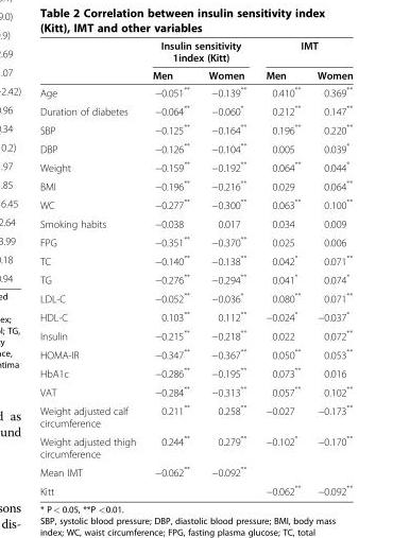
<table><thead><tr><td rowspan="2"></td><td colspan="2">Insulin sensitivity 1index (Kitt)</td><td colspan="2">IMT</td></tr><tr><td>Men</td><td>Women</td><td>Men</td><td>Women</td></tr></thead><tbody><tr><td>Age</td><td>−0.051**</td><td>−0.139**</td><td>0.410**</td><td>0.369**</td></tr><tr><td>Duration of diabetes</td><td>−0.064**</td><td>−0.060*</td><td>0.212**</td><td>0.147**</td></tr><tr><td>SBP</td><td>−0.125**</td><td>−0.164**</td><td>0.196**</td><td>0.220**</td></tr><tr><td>DBP</td><td>−0.126**</td><td>−0.104**</td><td>0.005</td><td>0.039*</td></tr><tr><td>Weight</td><td>−0.159**</td><td>−0.192**</td><td>0.064**</td><td>0.044*</td></tr><tr><td>BMI</td><td>−0.196**</td><td>−0.216**</td><td>0.029</td><td>0.064**</td></tr><tr><td>WC</td><td>−0.277**</td><td>−0.300**</td><td>0.063**</td><td>0.100**</td></tr><tr><td>Smoking habits</td><td>−0.038</td><td>0.017</td><td>0.034</td><td>0.009</td></tr><tr><td>FPG</td><td>−0.351**</td><td>−0.370**</td><td>0.025</td><td>0.006</td></tr><tr><td>TC</td><td>−0.140**</td><td>−0.138**</td><td>0.042*</td><td>0.071**</td></tr><tr><td>TG</td><td>−0.276**</td><td>−0.294**</td><td>0.041*</td><td>0.074*</td></tr><tr><td>LDL-C</td><td>−0.052**</td><td>−0.036*</td><td>0.080**</td><td>0.071**</td></tr><tr><td>HDL-C</td><td>0.103**</td><td>0.112**</td><td>−0.024*</td><td>−0.037*</td></tr><tr><td>Insulin</td><td>−0.215**</td><td>−0.218**</td><td>0.022</td><td>0.072**</td></tr><tr><td>HOMA-IR</td><td>−0.347**</td><td>−0.367**</td><td>0.050**</td><td>0.053**</td></tr><tr><td>HbA1c</td><td>−0.286**</td><td>−0.195**</td><td>0.073**</td><td>0.016</td></tr><tr><td>VAT</td><td>−0.284**</td><td>−0.313**</td><td>0.057**</td><td>0.102**</td></tr><tr><td>Weight adjusted calf circumference</td><td>0.211**</td><td>0.258**</td><td>−0.027</td><td>−0.173**</td></tr><tr><td>Weight adjusted thigh circumference</td><td>0.244**</td><td>0.279**</td><td>−0.102*</td><td>−0.170**</td></tr><tr><td>Mean IMT</td><td>−0.062**</td><td>−0.092**</td><td></td><td></td></tr><tr><td>Kitt</td><td></td><td></td><td>−0.062**</td><td>−0.092**</td></tr></tbody></table>